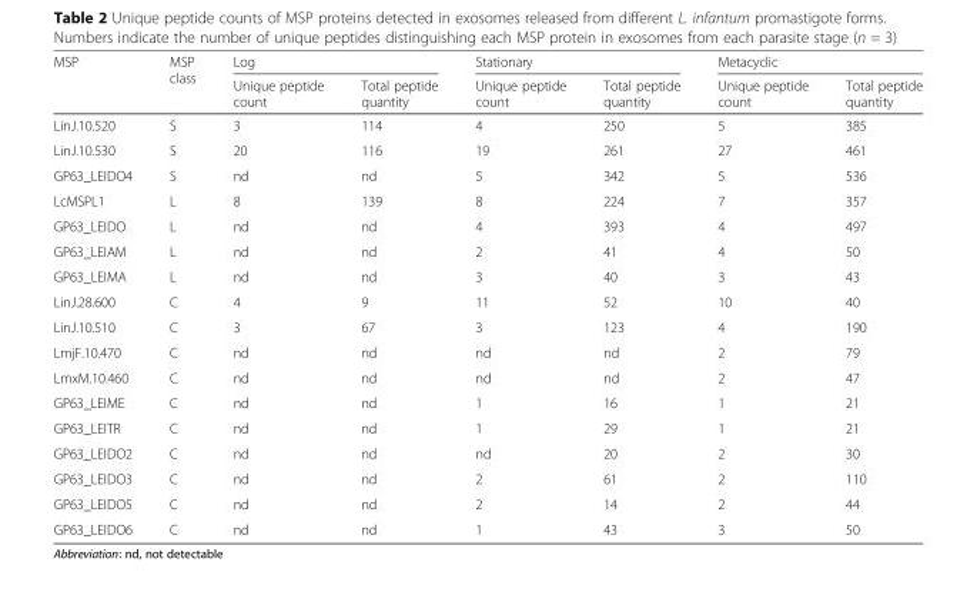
<table><thead><tr><td rowspan="2">MSP</td><td rowspan="2">MSP class</td><td colspan="2">Log</td><td colspan="2">Stationary</td><td colspan="2">Metacyclic</td></tr><tr><td>Unique peptide count</td><td>Total peptide quantity</td><td>Unique peptide count</td><td>Total peptide quantity</td><td>Unique peptide count</td><td>Total peptide quantity</td></tr></thead><tbody><tr><td>LinJ.10.520</td><td>S</td><td>3</td><td>114</td><td>4</td><td>250</td><td>5</td><td>385</td></tr><tr><td>LinJ.10.530</td><td>S</td><td>20</td><td>116</td><td>19</td><td>261</td><td>27</td><td>461</td></tr><tr><td>GP63_LEIDO4</td><td>S</td><td>nd</td><td>nd</td><td>5</td><td>342</td><td>5</td><td>536</td></tr><tr><td>LcMSPL1</td><td>L</td><td>8</td><td>139</td><td>8</td><td>224</td><td>7</td><td>357</td></tr><tr><td>GP63_LEIDO</td><td>L</td><td>nd</td><td>nd</td><td>4</td><td>393</td><td>4</td><td>497</td></tr><tr><td>GP63_LEIAM</td><td>L</td><td>nd</td><td>nd</td><td>2</td><td>41</td><td>4</td><td>50</td></tr><tr><td>GP63_LEIMA</td><td>L</td><td>nd</td><td>nd</td><td>3</td><td>40</td><td>3</td><td>43</td></tr><tr><td>LinJ.28.600</td><td>C</td><td>4</td><td>9</td><td>11</td><td>52</td><td>10</td><td>40</td></tr><tr><td>LinJ.10.510</td><td>C</td><td>3</td><td>67</td><td>3</td><td>123</td><td>4</td><td>190</td></tr><tr><td>LmjF.10.470</td><td>C</td><td>nd</td><td>nd</td><td>nd</td><td>nd</td><td>2</td><td>79</td></tr><tr><td>LmxM.10.460</td><td>C</td><td>nd</td><td>nd</td><td>nd</td><td>nd</td><td>2</td><td>47</td></tr><tr><td>GP63_LEIME</td><td>C</td><td>nd</td><td>nd</td><td>1</td><td>16</td><td>1</td><td>21</td></tr><tr><td>GP63_LEITR</td><td>C</td><td>nd</td><td>nd</td><td>1</td><td>29</td><td>1</td><td>21</td></tr><tr><td>GP63_LEIDO2</td><td>C</td><td>nd</td><td>nd</td><td>nd</td><td>20</td><td>2</td><td>30</td></tr><tr><td>GP63_LEIDO3</td><td>C</td><td>nd</td><td>nd</td><td>2</td><td>61</td><td>2</td><td>110</td></tr><tr><td>GP63_LEIDO5</td><td>C</td><td>nd</td><td>nd</td><td>2</td><td>14</td><td>2</td><td>44</td></tr><tr><td>GP63_LEIDO6</td><td>C</td><td>nd</td><td>nd</td><td>1</td><td>43</td><td>3</td><td>50</td></tr></tbody></table>